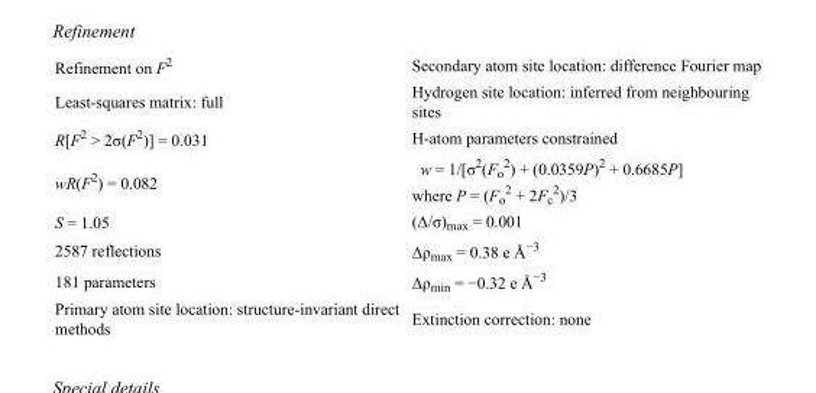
<table><tbody><tr><td>Refinement on F<sup>2</sup></td><td>Secondary atom site location: difference Fourier map</td></tr><tr><td>Least-squares matrix: full</td><td>Hydrogen site location: inferred from neighbouring sites</td></tr><tr><td>R[F<sup>2</sup> &gt; 2σ(F<sup>2</sup>)] = 0.031</td><td>H-atom parameters constrained</td></tr><tr><td>wR(F<sup>2</sup>) = 0.082</td><td>w = 1/[σ<sup>2</sup>(F<sub>o</sub> <sup>2</sup>) + (0.0359P)<sup>2</sup> + 0.6685P] where P = (F<sub>o</sub> <sup>2</sup> + 2F<sub>c</sub> <sup>2</sup>)/3</td></tr><tr><td>S = 1.05</td><td>(Δ/σ)<sub>max</sub> = 0.001</td></tr><tr><td>2587 reflections</td><td>Δρ<sub>max</sub> = 0.38 e Å<sup>−3</sup></td></tr><tr><td>181 parameters</td><td>Δρ<sub>min</sub> = −0.32 e Å<sup>−3</sup></td></tr><tr><td>Primary atom site location: structure-invariant direct methods</td><td>Extinction correction: none</td></tr></tbody></table>